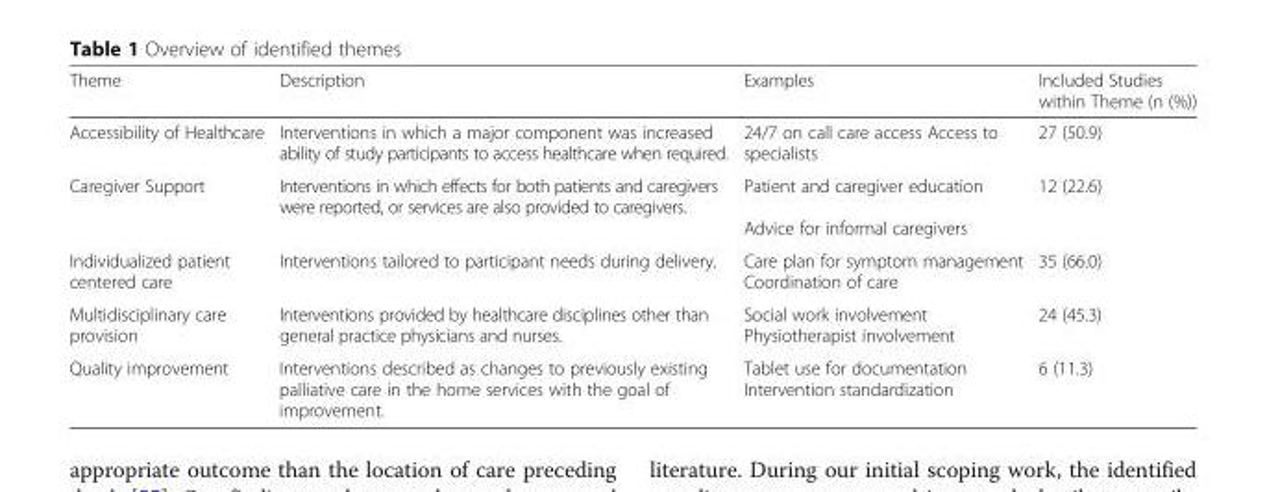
<table><thead><tr><td>Theme</td><td>Description</td><td>Examples</td><td>Included Studies within Theme (n (%))</td></tr></thead><tbody><tr><td>Accessibility of Healthcare</td><td>Interventions in which a major component was increased ability of study participants to access healthcare when required.</td><td>24/7 on call care access Access to specialists</td><td>27 (50.9)</td></tr><tr><td>Caregiver Support</td><td>Interventions in which effects for both patients and caregivers were reported, or services are also provided to caregivers.</td><td>Patient and caregiver education Advice for informal caregivers</td><td>12 (22.6)</td></tr><tr><td>Individualized patient centered care</td><td>Interventions tailored to participant needs during delivery.</td><td>Care plan for symptom management Coordination of care</td><td>35 (66.0)</td></tr><tr><td>Multidisciplinary care provision</td><td>Interventions provided by healthcare disciplines other than general practice physicians and nurses.</td><td>Social work involvement Physiotherapist involvement</td><td>24 (45.3)</td></tr><tr><td>Quality improvement</td><td>Interventions described as changes to previously existing palliative care in the home services with the goal of improvement.</td><td>Tablet use for documentation Intervention standardization</td><td>6 (11.3)</td></tr></tbody></table>